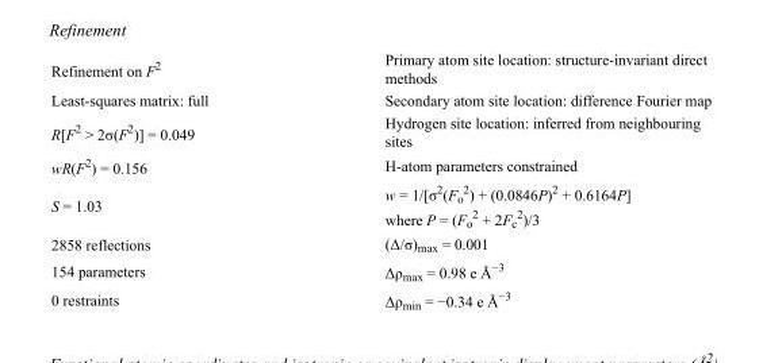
<table><tbody><tr><td>Refinement on F<sup>2</sup></td><td>Primary atom site location: structure-invariant direct methods</td></tr><tr><td>Least-squares matrix: full</td><td>Secondary atom site location: difference Fourier map</td></tr><tr><td>R[F<sup>2</sup> &gt; 2σ(F<sup>2</sup>)] = 0.049</td><td>Hydrogen site location: inferred from neighbouring sites</td></tr><tr><td>wR(F<sup>2</sup>) = 0.156</td><td>H-atom parameters constrained</td></tr><tr><td>S = 1.03</td><td>w = 1/[σ<sup>2</sup>(F<sub>o</sub> <sup>2</sup>) + (0.0846P)<sup>2</sup> + 0.6164P] where P = (F<sub>o</sub> <sup>2</sup> + 2F<sub>c</sub> <sup>2</sup>)/3</td></tr><tr><td>2858 reflections</td><td>(Δ/σ)<sub>max</sub> = 0.001</td></tr><tr><td>154 parameters</td><td>Δρ<sub>max</sub> = 0.98 e Å<sup>−3</sup></td></tr><tr><td>0 restraints</td><td>Δρ<sub>min</sub> = −0.34 e Å<sup>−3</sup></td></tr></tbody></table>